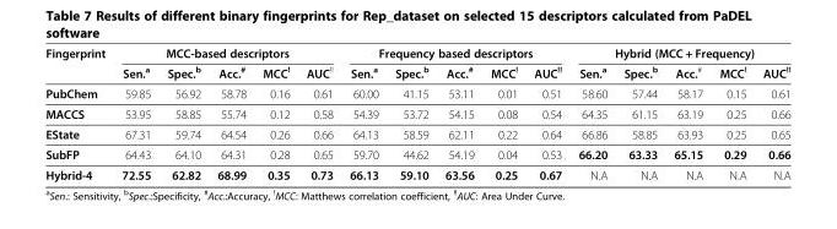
<table><thead><tr><td rowspan="2">Fingerprint</td><td colspan="5">MCC-based descriptors</td><td colspan="5">Frequency based descriptors</td><td colspan="5">Hybrid (MCC + Frequency)</td></tr><tr><td>Sen.<sup>a</sup></td><td>Spec.<sup>b</sup></td><td>Acc.<sup>#</sup></td><td>MCC<sup>!</sup></td><td>AUC<sup>!!</sup></td><td>Sen.<sup>a</sup></td><td>Spec.<sup>b</sup></td><td>Acc.<sup>#</sup></td><td>MCC<sup>!</sup></td><td>AUC<sup>!!</sup></td><td>Sen.<sup>a</sup></td><td>Spec.<sup>b</sup></td><td>Acc.<sup>#</sup></td><td>MCC<sup>!</sup></td><td>AUC<sup>!!</sup></td></tr></thead><tbody><tr><td>PubChem</td><td>59.85</td><td>56.92</td><td>58.78</td><td>0.16</td><td>0.61</td><td>60.00</td><td>41.15</td><td>53.11</td><td>0.01</td><td>0.51</td><td>58.60</td><td>57.44</td><td>58.17</td><td>0.15</td><td>0.61</td></tr><tr><td>MACCS</td><td>53.95</td><td>58.85</td><td>55.74</td><td>0.12</td><td>0.58</td><td>54.39</td><td>53.72</td><td>54.15</td><td>0.08</td><td>0.54</td><td>64.35</td><td>61.15</td><td>63.19</td><td>0.25</td><td>0.66</td></tr><tr><td>EState</td><td>67.31</td><td>59.74</td><td>64.54</td><td>0.26</td><td>0.66</td><td>64.13</td><td>58.59</td><td>62.11</td><td>0.22</td><td>0.64</td><td>66.86</td><td>58.85</td><td>63.93</td><td>0.25</td><td>0.65</td></tr><tr><td>SubFP</td><td>64.43</td><td>64.10</td><td>64.31</td><td>0.28</td><td>0.65</td><td>59.70</td><td>44.62</td><td>54.19</td><td>0.04</td><td>0.53</td><td>66.20</td><td>63.33</td><td>65.15</td><td>0.29</td><td>0.66</td></tr><tr><td>Hybrid-4</td><td>72.55</td><td>62.82</td><td>68.99</td><td>0.35</td><td>0.73</td><td>66.13</td><td>59.10</td><td>63.56</td><td>0.25</td><td>0.67</td><td>N.A</td><td>N.A</td><td>N.A</td><td>N.A</td><td>N.A</td></tr></tbody></table>